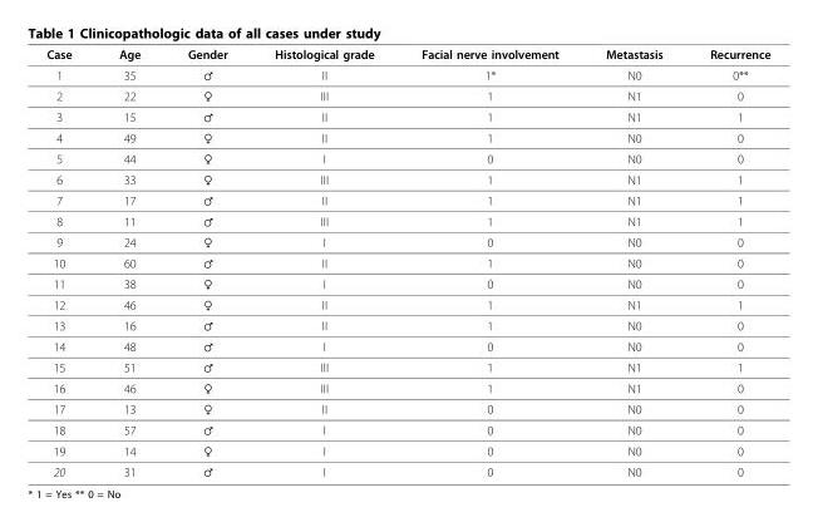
<table><thead><tr><td>Case</td><td>Age</td><td>Gender</td><td>Histological grade</td><td>Facial nerve involvement</td><td>Metastasis</td><td>Recurrence</td></tr></thead><tbody><tr><td>1</td><td>35</td><td>♂</td><td>II</td><td>1*</td><td>N0</td><td>0**</td></tr><tr><td>2</td><td>22</td><td>♀</td><td>III</td><td>1</td><td>N1</td><td>0</td></tr><tr><td>3</td><td>15</td><td>♂</td><td>II</td><td>1</td><td>N1</td><td>1</td></tr><tr><td>4</td><td>49</td><td>♀</td><td>II</td><td>1</td><td>N0</td><td>0</td></tr><tr><td>5</td><td>44</td><td>♀</td><td>I</td><td>0</td><td>N0</td><td>0</td></tr><tr><td>6</td><td>33</td><td>♀</td><td>III</td><td>1</td><td>N1</td><td>1</td></tr><tr><td>7</td><td>17</td><td>♂</td><td>II</td><td>1</td><td>N1</td><td>1</td></tr><tr><td>8</td><td>11</td><td>♂</td><td>III</td><td>1</td><td>N1</td><td>1</td></tr><tr><td>9</td><td>24</td><td>♀</td><td>I</td><td>0</td><td>N0</td><td>0</td></tr><tr><td>10</td><td>60</td><td>♂</td><td>II</td><td>1</td><td>N0</td><td>0</td></tr><tr><td>11</td><td>38</td><td>♀</td><td>I</td><td>0</td><td>N0</td><td>0</td></tr><tr><td>12</td><td>46</td><td>♀</td><td>II</td><td>1</td><td>N1</td><td>1</td></tr><tr><td>13</td><td>16</td><td>♂</td><td>II</td><td>1</td><td>N0</td><td>0</td></tr><tr><td>14</td><td>48</td><td>♂</td><td>I</td><td>0</td><td>N0</td><td>0</td></tr><tr><td>15</td><td>51</td><td>♂</td><td>III</td><td>1</td><td>N1</td><td>1</td></tr><tr><td>16</td><td>46</td><td>♀</td><td>III</td><td>1</td><td>N1</td><td>0</td></tr><tr><td>17</td><td>13</td><td>♀</td><td>II</td><td>0</td><td>N0</td><td>0</td></tr><tr><td>18</td><td>57</td><td>♂</td><td>I</td><td>0</td><td>N0</td><td>0</td></tr><tr><td>19</td><td>14</td><td>♀</td><td>I</td><td>0</td><td>N0</td><td>0</td></tr><tr><td>20</td><td>31</td><td>♂</td><td>I</td><td>0</td><td>N0</td><td>0</td></tr></tbody></table>